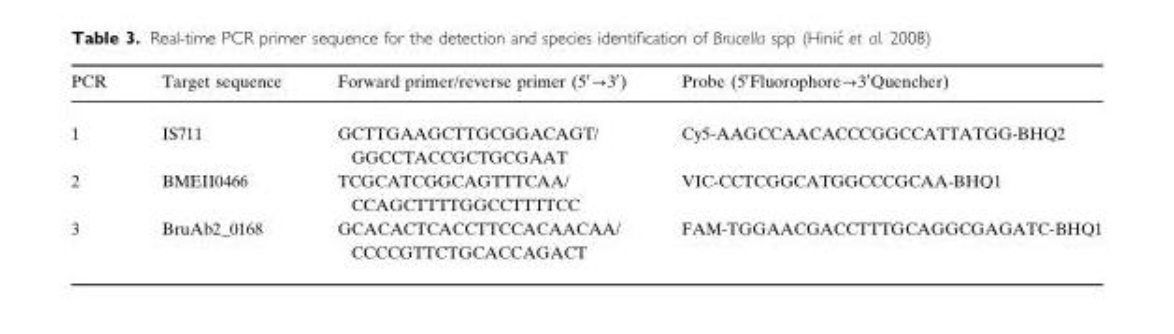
<table><thead><tr><td>PCR</td><td>Target sequence</td><td>Forward primer/reverse primer (5′→3′)</td><td>Probe (5′Fluorophore→3′Quencher)</td></tr></thead><tbody><tr><td>1</td><td>IS711</td><td>GCTTGAAGCTTGCGGACAGT/ GGCCTACCGCTGCGAAT</td><td>Cy5-AAGCCAACACCCGGCCATTATGG-BHQ2</td></tr><tr><td>2</td><td>BMEII0466</td><td>TCGCATCGGCAGTTTCAA/ CCAGCTTTTGGCCTTTTCC</td><td>VIC-CCTCGGCATGGCCCGCAA-BHQ1</td></tr><tr><td>3</td><td>BruAb2_0168</td><td>GCACACTCACCTTCCACAACAA/ CCCCGTTCTGCACCAGACT</td><td>FAM-TGGAACGACCTTTGCAGGCGAGATC-BHQ1</td></tr></tbody></table>